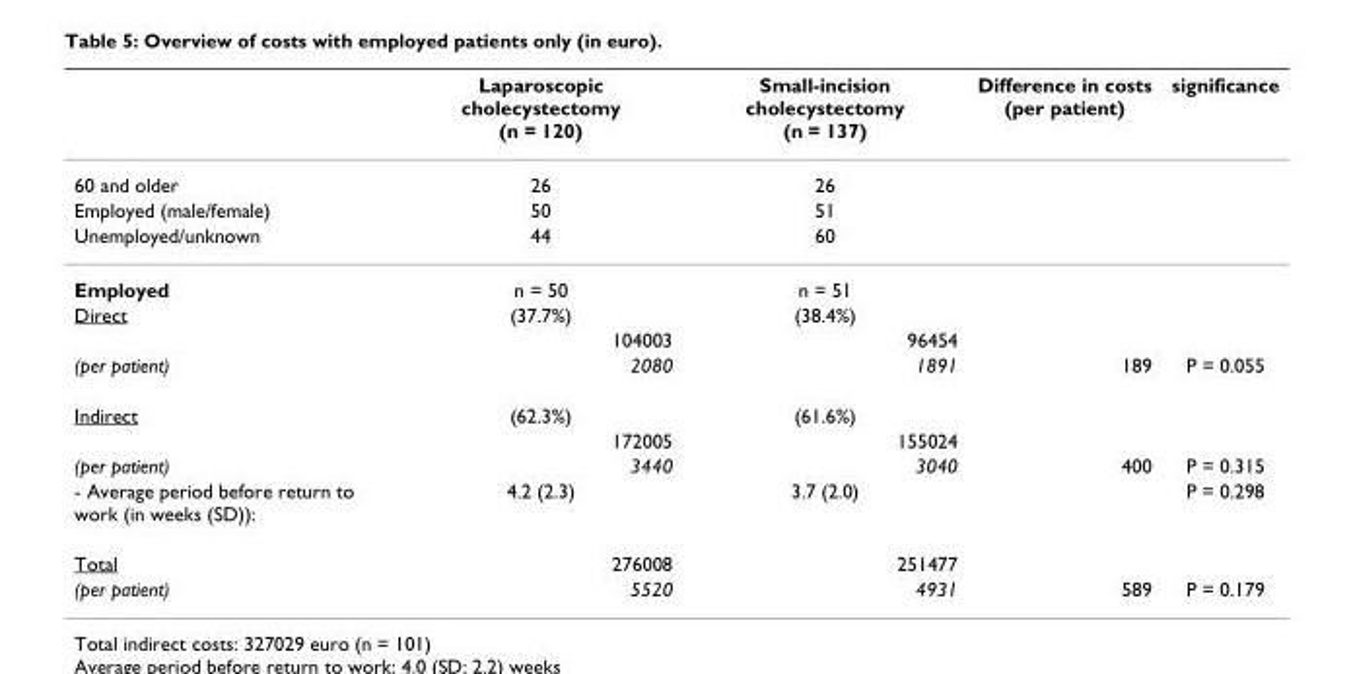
<table><thead><tr><td></td><td>Laparoscopic cholecystectomy (n = 120)</td><td>Small-incision cholecystectomy (n = 137)</td><td>Difference in costs (per patient)</td><td>significance</td></tr></thead><tbody><tr><td>60 and older</td><td>26</td><td>26</td><td></td><td></td></tr><tr><td>Employed (male/female)</td><td>50</td><td>51</td><td></td><td></td></tr><tr><td>Unemployed/unknown</td><td>44</td><td>60</td><td></td><td></td></tr><tr><td>Employed</td><td>n = 50</td><td>n = 51</td><td></td><td></td></tr><tr><td rowspan="2">Direct</td><td>(37.7%)</td><td>(38.4%)</td><td></td><td></td></tr><tr><td>104003</td><td>96454</td><td></td><td></td></tr><tr><td>(per patient)</td><td>2080</td><td>1891</td><td>189</td><td>P = 0.055</td></tr><tr><td rowspan="2">Indirect</td><td>(62.3%)</td><td>(61.6%)</td><td></td><td></td></tr><tr><td>172005</td><td>155024</td><td></td><td></td></tr><tr><td>(per patient)</td><td>3440</td><td>3040</td><td>400</td><td>P = 0.315</td></tr><tr><td>- Average period before return to work (in weeks (SD)):</td><td>4.2 (2.3)</td><td>3.7 (2.0)</td><td></td><td>P = 0.298</td></tr><tr><td>Total</td><td>276008</td><td>251477</td><td></td><td></td></tr><tr><td>(per patient)</td><td>5520</td><td>4931</td><td>589</td><td>P = 0.179</td></tr></tbody></table>